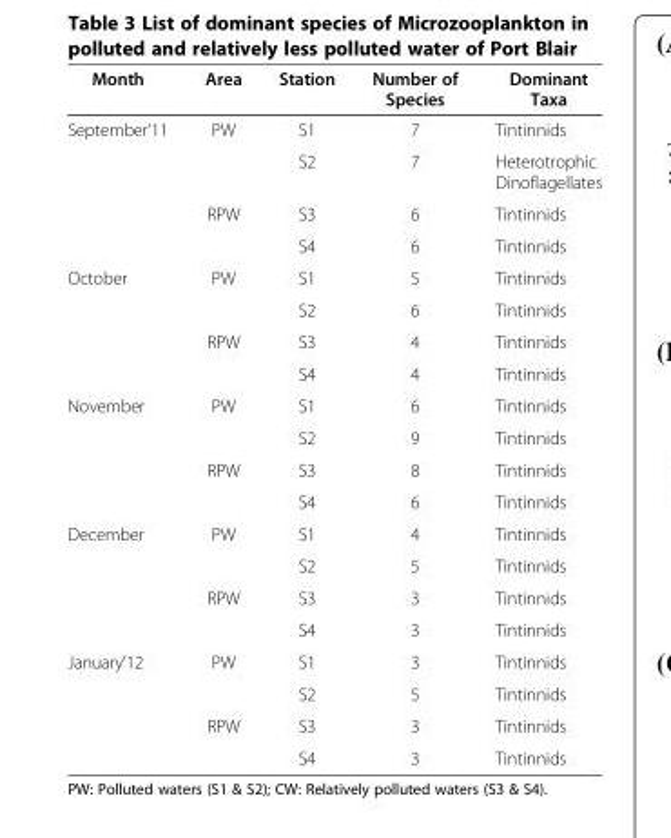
<table><thead><tr><td>Month</td><td>Area</td><td>Station</td><td>Number of Species</td><td>Dominant Taxa</td></tr></thead><tbody><tr><td rowspan="4">September’11</td><td>PW</td><td>S1</td><td>7</td><td>Tintinnids</td></tr><tr><td></td><td>S2</td><td>7</td><td>Heterotrophic Dinoflagellates</td></tr><tr><td>RPW</td><td>S3</td><td>6</td><td>Tintinnids</td></tr><tr><td></td><td>S4</td><td>6</td><td>Tintinnids</td></tr><tr><td rowspan="4">October</td><td>PW</td><td>S1</td><td>5</td><td>Tintinnids</td></tr><tr><td></td><td>S2</td><td>6</td><td>Tintinnids</td></tr><tr><td>RPW</td><td>S3</td><td>4</td><td>Tintinnids</td></tr><tr><td></td><td>S4</td><td>4</td><td>Tintinnids</td></tr><tr><td rowspan="4">November</td><td>PW</td><td>S1</td><td>6</td><td>Tintinnids</td></tr><tr><td></td><td>S2</td><td>9</td><td>Tintinnids</td></tr><tr><td>RPW</td><td>S3</td><td>8</td><td>Tintinnids</td></tr><tr><td></td><td>S4</td><td>6</td><td>Tintinnids</td></tr><tr><td rowspan="4">December</td><td>PW</td><td>S1</td><td>4</td><td>Tintinnids</td></tr><tr><td></td><td>S2</td><td>5</td><td>Tintinnids</td></tr><tr><td>RPW</td><td>S3</td><td>3</td><td>Tintinnids</td></tr><tr><td></td><td>S4</td><td>3</td><td>Tintinnids</td></tr><tr><td rowspan="4">January’12</td><td>PW</td><td>S1</td><td>3</td><td>Tintinnids</td></tr><tr><td></td><td>S2</td><td>5</td><td>Tintinnids</td></tr><tr><td>RPW</td><td>S3</td><td>3</td><td>Tintinnids</td></tr><tr><td></td><td>S4</td><td>3</td><td>Tintinnids</td></tr></tbody></table>